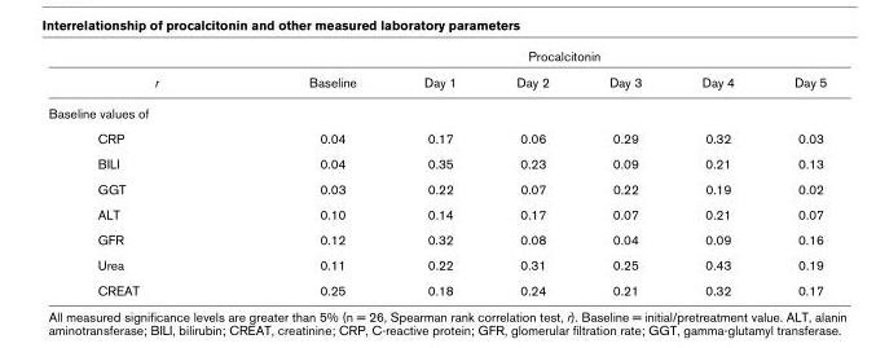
<table><thead><tr><td rowspan="2">r</td><td colspan="6">Procalcitonin</td></tr><tr><td>Baseline</td><td>Day 1</td><td>Day 2</td><td>Day 3</td><td>Day 4</td><td>Day 5</td></tr></thead><tbody><tr><td colspan="7">Baseline values of</td></tr><tr><td>CRP</td><td>0.04</td><td>0.17</td><td>0.06</td><td>0.29</td><td>0.32</td><td>0.03</td></tr><tr><td>BILI</td><td>0.04</td><td>0.35</td><td>0.23</td><td>0.09</td><td>0.21</td><td>0.13</td></tr><tr><td>GGT</td><td>0.03</td><td>0.22</td><td>0.07</td><td>0.22</td><td>0.19</td><td>0.02</td></tr><tr><td>ALT</td><td>0.10</td><td>0.14</td><td>0.17</td><td>0.07</td><td>0.21</td><td>0.07</td></tr><tr><td>GFR</td><td>0.12</td><td>0.32</td><td>0.08</td><td>0.04</td><td>0.09</td><td>0.16</td></tr><tr><td>Urea</td><td>0.11</td><td>0.22</td><td>0.31</td><td>0.25</td><td>0.43</td><td>0.19</td></tr><tr><td>CREAT</td><td>0.25</td><td>0.18</td><td>0.24</td><td>0.21</td><td>0.32</td><td>0.17</td></tr></tbody></table>